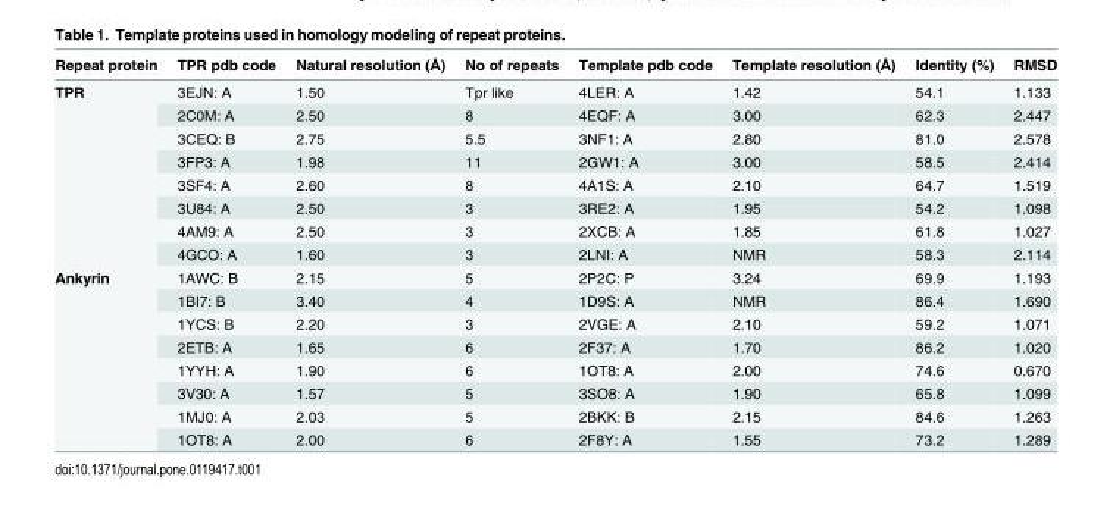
<table><thead><tr><td>Repeat protein</td><td>TPR pdb code</td><td>Natural resolution (Å)</td><td>No of repeats</td><td>Template pdb code</td><td>Template resolution (Å)</td><td>Identity (%)</td><td>RMSD</td></tr></thead><tbody><tr><td rowspan="8">TPR</td><td>3EJN: A</td><td>1.50</td><td>Tpr like</td><td>4LER: A</td><td>1.42</td><td>54.1</td><td>1.133</td></tr><tr><td>2C0M: A</td><td>2.50</td><td>8</td><td>4EQF: A</td><td>3.00</td><td>62.3</td><td>2.447</td></tr><tr><td>3CEQ: B</td><td>2.75</td><td>5.5</td><td>3NF1: A</td><td>2.80</td><td>81.0</td><td>2.578</td></tr><tr><td>3FP3: A</td><td>1.98</td><td>11</td><td>2GW1: A</td><td>3.00</td><td>58.5</td><td>2.414</td></tr><tr><td>3SF4: A</td><td>2.60</td><td>8</td><td>4A1S: A</td><td>2.10</td><td>64.7</td><td>1.519</td></tr><tr><td>3U84: A</td><td>2.50</td><td>3</td><td>3RE2: A</td><td>1.95</td><td>54.2</td><td>1.098</td></tr><tr><td>4AM9: A</td><td>2.50</td><td>3</td><td>2XCB: A</td><td>1.85</td><td>61.8</td><td>1.027</td></tr><tr><td>4GCO: A</td><td>1.60</td><td>3</td><td>2LNI: A</td><td>NMR</td><td>58.3</td><td>2.114</td></tr><tr><td rowspan="8">Ankyrin</td><td>1AWC: B</td><td>2.15</td><td>5</td><td>2P2C: P</td><td>3.24</td><td>69.9</td><td>1.193</td></tr><tr><td>1BI7: B</td><td>3.40</td><td>4</td><td>1D9S: A</td><td>NMR</td><td>86.4</td><td>1.690</td></tr><tr><td>1YCS: B</td><td>2.20</td><td>3</td><td>2VGE: A</td><td>2.10</td><td>59.2</td><td>1.071</td></tr><tr><td>2ETB: A</td><td>1.65</td><td>6</td><td>2F37: A</td><td>1.70</td><td>86.2</td><td>1.020</td></tr><tr><td>1YYH: A</td><td>1.90</td><td>6</td><td>1OT8: A</td><td>2.00</td><td>74.6</td><td>0.670</td></tr><tr><td>3V30: A</td><td>1.57</td><td>5</td><td>3SO8: A</td><td>1.90</td><td>65.8</td><td>1.099</td></tr><tr><td>1MJ0: A</td><td>2.03</td><td>5</td><td>2BKK: B</td><td>2.15</td><td>84.6</td><td>1.263</td></tr><tr><td>1OT8: A</td><td>2.00</td><td>6</td><td>2F8Y: A</td><td>1.55</td><td>73.2</td><td>1.289</td></tr></tbody></table>